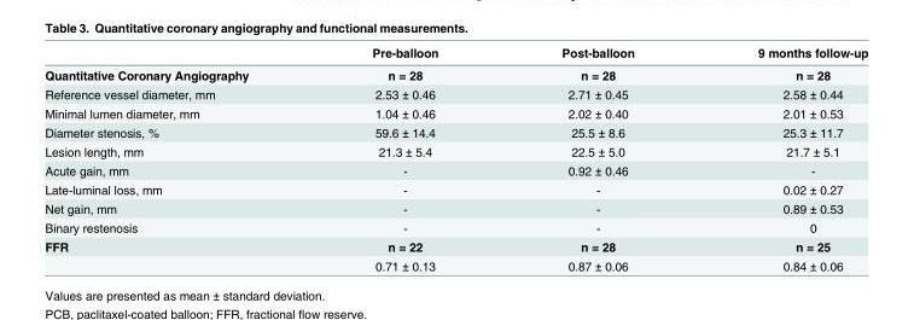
<table><thead><tr><td></td><td>Pre-balloon</td><td>Post-balloon</td><td>9 months follow-up</td></tr></thead><tbody><tr><td>Quantitative Coronary Angiography</td><td>n = 28</td><td>n = 28</td><td>n = 28</td></tr><tr><td>Reference vessel diameter, mm</td><td>2.53 ± 0.46</td><td>2.71 ± 0.45</td><td>2.58 ± 0.44</td></tr><tr><td>Minimal lumen diameter, mm</td><td>1.04 ± 0.46</td><td>2.02 ± 0.40</td><td>2.01 ± 0.53</td></tr><tr><td>Diameter stenosis, %</td><td>59.6 ± 14.4</td><td>25.5 ± 8.6</td><td>25.3 ± 11.7</td></tr><tr><td>Lesion length, mm</td><td>21.3 ± 5.4</td><td>22.5 ± 5.0</td><td>21.7 ± 5.1</td></tr><tr><td>Acute gain, mm</td><td>-</td><td>0.92 ± 0.46</td><td>-</td></tr><tr><td>Late-luminal loss, mm</td><td>-</td><td>-</td><td>0.02 ± 0.27</td></tr><tr><td>Net gain, mm</td><td>-</td><td>-</td><td>0.89 ± 0.53</td></tr><tr><td>Binary restenosis</td><td>-</td><td>-</td><td>0</td></tr><tr><td rowspan="2">FFR</td><td>n = 22</td><td>n = 28</td><td>n = 25</td></tr><tr><td>0.71 ± 0.13</td><td>0.87 ± 0.06</td><td>0.84 ± 0.06</td></tr></tbody></table>